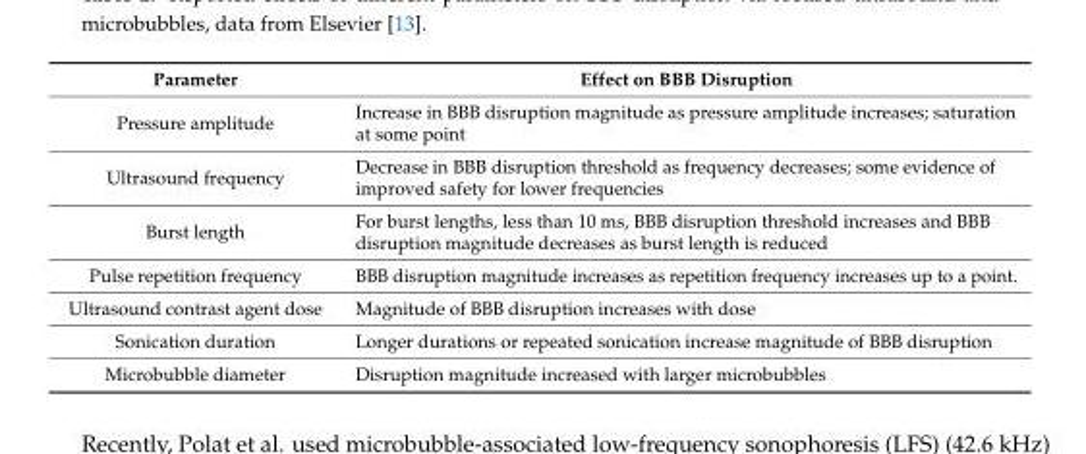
<table><thead><tr><td>Parameter</td><td>Effect on BBB Disruption</td></tr></thead><tbody><tr><td>Pressure amplitude</td><td>Increase in BBB disruption magnitude as pressure amplitude increases; saturation at some point</td></tr><tr><td>Ultrasound frequency</td><td>Decrease in BBB disruption threshold as frequency decreases; some evidence of improved safety for lower frequencies</td></tr><tr><td>Burst length</td><td>For burst lengths, less than 10 ms, BBB disruption threshold increases and BBB disruption magnitude decreases as burst length is reduced</td></tr><tr><td>Pulse repetition frequency</td><td>BBB disruption magnitude increases as repetition frequency increases up to a point.</td></tr><tr><td>Ultrasound contrast agent dose</td><td>Magnitude of BBB disruption increases with dose</td></tr><tr><td>Sonication duration</td><td>Longer durations or repeated sonication increase magnitude of BBB disruption</td></tr><tr><td>Microbubble diameter</td><td>Disruption magnitude increased with larger microbubbles</td></tr></tbody></table>